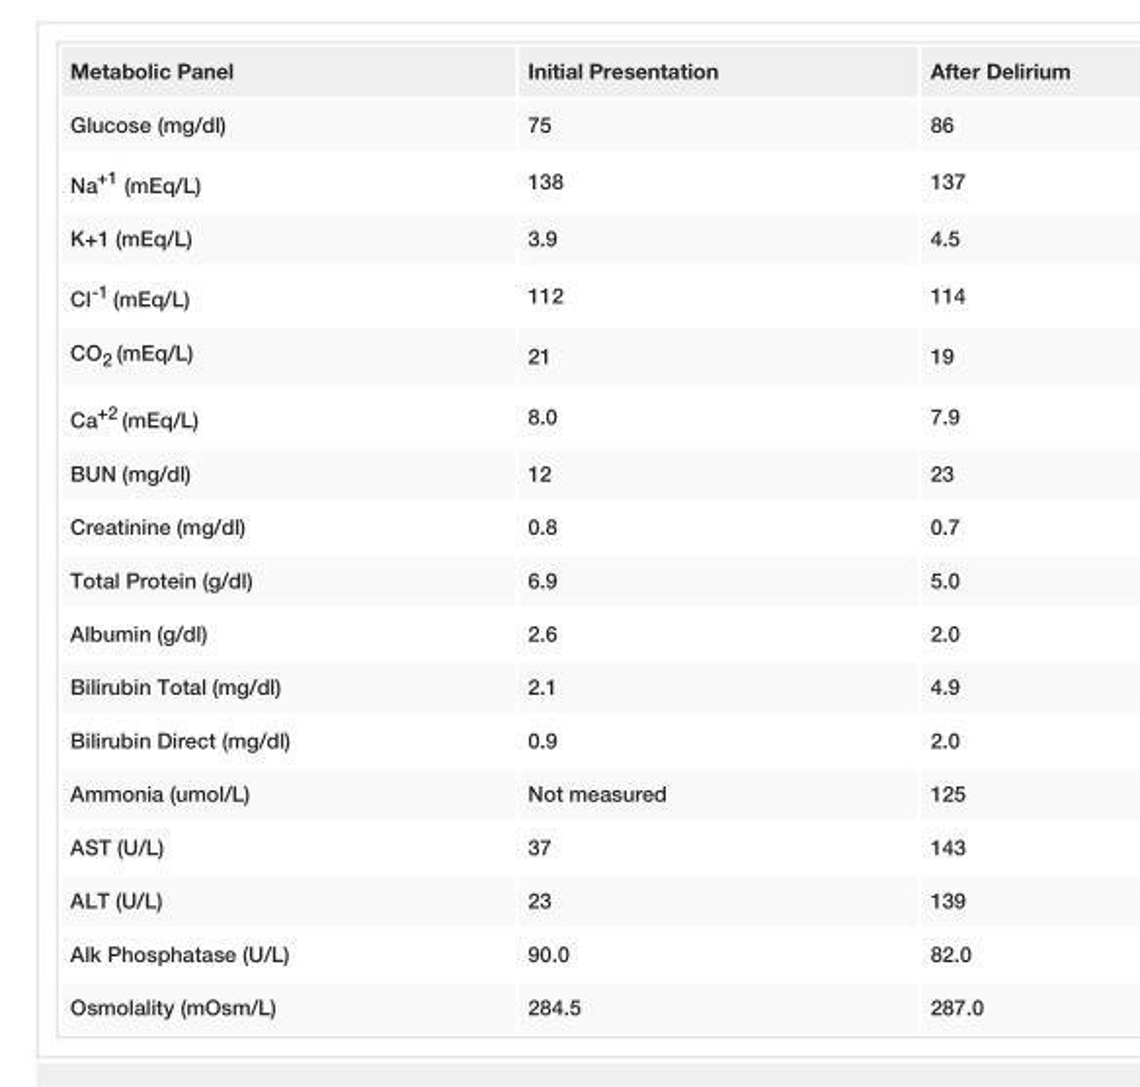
<table><tbody><tr><td>Metabolic Panel</td><td>Initial Presentation</td><td>After Delirium</td></tr><tr><td>Glucose (mg/dl)</td><td>75</td><td>86</td></tr><tr><td>Na<sup>+1</sup> (mEq/L)</td><td>138</td><td>137</td></tr><tr><td>K+1 (mEq/L)</td><td>3.9</td><td>4.5</td></tr><tr><td>Cl<sup>-1</sup> (mEq/L)</td><td>112</td><td>114</td></tr><tr><td>CO<sub>2</sub> (mEq/L)</td><td>21</td><td>19</td></tr><tr><td>Ca<sup>+2</sup> (mEq/L)</td><td>8.0</td><td>7.9</td></tr><tr><td>BUN (mg/dl)</td><td>12</td><td>23</td></tr><tr><td>Creatinine (mg/dl)</td><td>0.8</td><td>0.7</td></tr><tr><td>Total Protein (g/dl)</td><td>6.9</td><td>5.0</td></tr><tr><td>Albumin (g/dl)</td><td>2.6</td><td>2.0</td></tr><tr><td>Bilirubin Total (mg/dl)</td><td>2.1</td><td>4.9</td></tr><tr><td>Bilirubin Direct (mg/dl)</td><td>0.9</td><td>2.0</td></tr><tr><td>Ammonia (umol/L)</td><td>Not measured</td><td>125</td></tr><tr><td>AST (U/L)</td><td>37</td><td>143</td></tr><tr><td>ALT (U/L)</td><td>23</td><td>139</td></tr><tr><td>Alk Phosphatase (U/L)</td><td>90.0</td><td>82.0</td></tr><tr><td>Osmolality (mOsm/L)</td><td>284.5</td><td>287.0</td></tr></tbody></table>